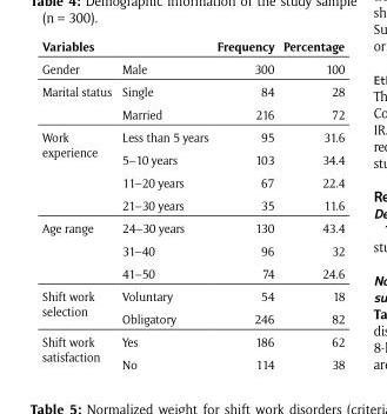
<table><thead><tr><td colspan="2">Variables</td><td rowspan="2">Frequency 300</td><td rowspan="2">Percentage 100</td></tr><tr><td>Gender</td><td>Male</td></tr></thead><tbody><tr><td rowspan="2">Marital status</td><td>Single</td><td>84</td><td>28</td></tr><tr><td>Married</td><td>216</td><td>72</td></tr><tr><td rowspan="4">Work experience</td><td>Less than 5 years</td><td>95</td><td>31.6</td></tr><tr><td>5–10 years</td><td>103</td><td>34.4</td></tr><tr><td>11–20 years</td><td>67</td><td>22.4</td></tr><tr><td>21–30 years</td><td>35</td><td>11.6</td></tr><tr><td rowspan="3">Age range</td><td>24–30 years</td><td>130</td><td>43.4</td></tr><tr><td>31–40</td><td>96</td><td>32</td></tr><tr><td>41–50</td><td>74</td><td>24.6</td></tr><tr><td rowspan="2">Shift work selection</td><td>Voluntary</td><td>54</td><td>18</td></tr><tr><td>Obligatory</td><td>246</td><td>82</td></tr><tr><td rowspan="2">Shift work satisfaction</td><td>Yes</td><td>186</td><td>62</td></tr><tr><td>No</td><td>114</td><td>38</td></tr></tbody></table>